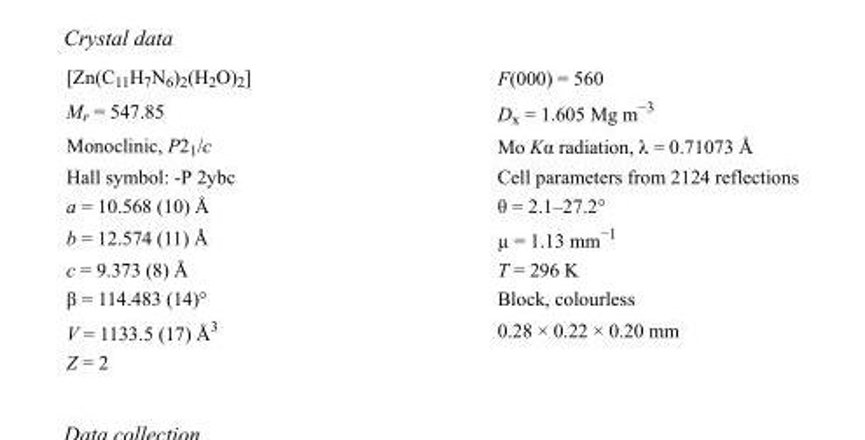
<table><tbody><tr><td>[Zn(C<sub>11</sub>H<sub>7</sub>N<sub>6</sub>)<sub>2</sub>(H<sub>2</sub>O)<sub>2</sub>]</td><td>F(000) = 560</td></tr><tr><td>M<sub>r</sub> = 547.85</td><td>D<sub>x</sub> = 1.605 Mg m<sup>−3</sup></td></tr><tr><td>Monoclinic, P2<sub>1</sub>/c</td><td>Mo Kα radiation, λ = 0.71073 Å</td></tr><tr><td>Hall symbol: -P 2ybc</td><td>Cell parameters from 2124 reflections</td></tr><tr><td>a = 10.568 (10) Å</td><td>θ = 2.1–27.2°</td></tr><tr><td>b = 12.574 (11) Å</td><td>µ = 1.13 mm<sup>−1</sup></td></tr><tr><td>c = 9.373 (8) Å</td><td>T = 296 K</td></tr><tr><td>β = 114.483 (14)°</td><td>Block, colourless</td></tr><tr><td>V = 1133.5 (17) Å<sup>3</sup></td><td>0.28 × 0.22 × 0.20 mm</td></tr><tr><td>Z = 2</td><td></td></tr></tbody></table>